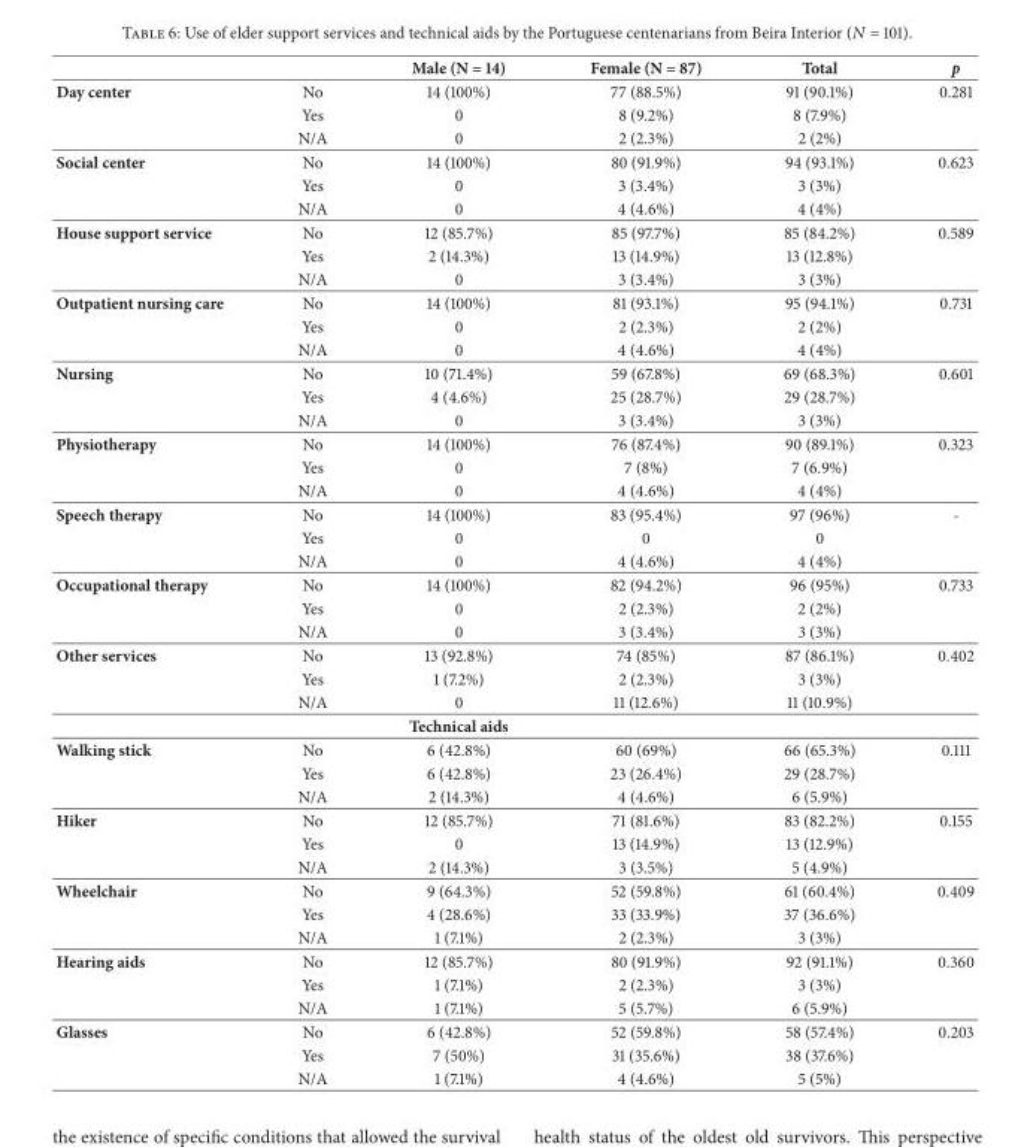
<table><thead><tr><td></td><td></td><td>Male (N = 14)</td><td>Female (N = 87)</td><td>Total</td><td>p</td></tr></thead><tbody><tr><td rowspan="3">Day center</td><td>No</td><td>14 (100%)</td><td>77 (88.5%)</td><td>91 (90.1%)</td><td>0.281</td></tr><tr><td>Yes</td><td>0</td><td>8 (9.2%)</td><td>8 (7.9%)</td><td></td></tr><tr><td>N/A</td><td>0</td><td>2 (2.3%)</td><td>2 (2%)</td><td></td></tr><tr><td rowspan="3">Social center</td><td>No</td><td>14 (100%)</td><td>80 (91.9%)</td><td>94 (93.1%)</td><td>0.623</td></tr><tr><td>Yes</td><td>0</td><td>3 (3.4%)</td><td>3 (3%)</td><td></td></tr><tr><td>N/A</td><td>0</td><td>4 (4.6%)</td><td>4 (4%)</td><td></td></tr><tr><td rowspan="3">House support service</td><td>No</td><td>12 (85.7%)</td><td>85 (97.7%)</td><td>85 (84.2%)</td><td>0.589</td></tr><tr><td>Yes</td><td>2 (14.3%)</td><td>13 (14.9%)</td><td>13 (12.8%)</td><td></td></tr><tr><td>N/A</td><td>0</td><td>3 (3.4%)</td><td>3 (3%)</td><td></td></tr><tr><td rowspan="3">Outpatient nursing care</td><td>No</td><td>14 (100%)</td><td>81 (93.1%)</td><td>95 (94.1%)</td><td>0.731</td></tr><tr><td>Yes</td><td>0</td><td>2 (2.3%)</td><td>2 (2%)</td><td></td></tr><tr><td>N/A</td><td>0</td><td>4 (4.6%)</td><td>4 (4%)</td><td></td></tr><tr><td rowspan="3">Nursing</td><td>No</td><td>10 (71.4%)</td><td>59 (67.8%)</td><td>69 (68.3%)</td><td>0.601</td></tr><tr><td>Yes</td><td>4 (4.6%)</td><td>25 (28.7%)</td><td>29 (28.7%)</td><td></td></tr><tr><td>N/A</td><td>0</td><td>3 (3.4%)</td><td>3 (3%)</td><td></td></tr><tr><td rowspan="3">Physiotherapy</td><td>No</td><td>14 (100%)</td><td>76 (87.4%)</td><td>90 (89.1%)</td><td>0.323</td></tr><tr><td>Yes</td><td>0</td><td>7 (8%)</td><td>7 (6.9%)</td><td></td></tr><tr><td>N/A</td><td>0</td><td>4 (4.6%)</td><td>4 (4%)</td><td></td></tr><tr><td rowspan="3">Speech therapy</td><td>No</td><td>14 (100%)</td><td>83 (95.4%)</td><td>97 (96%)</td><td>-</td></tr><tr><td>Yes</td><td>0</td><td>0</td><td>0</td><td></td></tr><tr><td>N/A</td><td>0</td><td>4 (4.6%)</td><td>4 (4%)</td><td></td></tr><tr><td rowspan="3">Occupational therapy</td><td>No</td><td>14 (100%)</td><td>82 (94.2%)</td><td>96 (95%)</td><td>0.733</td></tr><tr><td>Yes</td><td>0</td><td>2 (2.3%)</td><td>2 (2%)</td><td></td></tr><tr><td>N/A</td><td>0</td><td>3 (3.4%)</td><td>3 (3%)</td><td></td></tr><tr><td rowspan="4">Other services</td><td>No</td><td>13 (92.8%)</td><td>74 (85%)</td><td>87 (86.1%)</td><td>0.402</td></tr><tr><td>Yes</td><td>1 (7.2%)</td><td>2 (2.3%)</td><td>3 (3%)</td><td></td></tr><tr><td>N/A</td><td>0</td><td>11 (12.6%)</td><td>11 (10.9%)</td><td></td></tr><tr><td></td><td>Technical aids</td><td></td><td></td><td></td></tr><tr><td rowspan="3">Walking stick</td><td>No</td><td>6 (42.8%)</td><td>60 (69%)</td><td>66 (65.3%)</td><td>0.111</td></tr><tr><td>Yes</td><td>6 (42.8%)</td><td>23 (26.4%)</td><td>29 (28.7%)</td><td></td></tr><tr><td>N/A</td><td>2 (14.3%)</td><td>4 (4.6%)</td><td>6 (5.9%)</td><td></td></tr><tr><td rowspan="3">Hiker</td><td>No</td><td>12 (85.7%)</td><td>71 (81.6%)</td><td>83 (82.2%)</td><td>0.155</td></tr><tr><td>Yes</td><td>0</td><td>13 (14.9%)</td><td>13 (12.9%)</td><td></td></tr><tr><td>N/A</td><td>2 (14.3%)</td><td>3 (3.5%)</td><td>5 (4.9%)</td><td></td></tr><tr><td rowspan="3">Wheelchair</td><td>No</td><td>9 (64.3%)</td><td>52 (59.8%)</td><td>61 (60.4%)</td><td>0.409</td></tr><tr><td>Yes</td><td>4 (28.6%)</td><td>33 (33.9%)</td><td>37 (36.6%)</td><td></td></tr><tr><td>N/A</td><td>1 (7.1%)</td><td>2 (2.3%)</td><td>3 (3%)</td><td></td></tr><tr><td rowspan="3">Hearing aids</td><td>No</td><td>12 (85.7%)</td><td>80 (91.9%)</td><td>92 (91.1%)</td><td>0.360</td></tr><tr><td>Yes</td><td>1 (7.1%)</td><td>2 (2.3%)</td><td>3 (3%)</td><td></td></tr><tr><td>N/A</td><td>1 (7.1%)</td><td>5 (5.7%)</td><td>6 (5.9%)</td><td></td></tr><tr><td rowspan="3">Glasses</td><td>No</td><td>6 (42.8%)</td><td>52 (59.8%)</td><td>58 (57.4%)</td><td>0.203</td></tr><tr><td>Yes</td><td>7 (50%)</td><td>31 (35.6%)</td><td>38 (37.6%)</td><td></td></tr><tr><td>N/A</td><td>1 (7.1%)</td><td>4 (4.6%)</td><td>5 (5%)</td><td></td></tr></tbody></table>